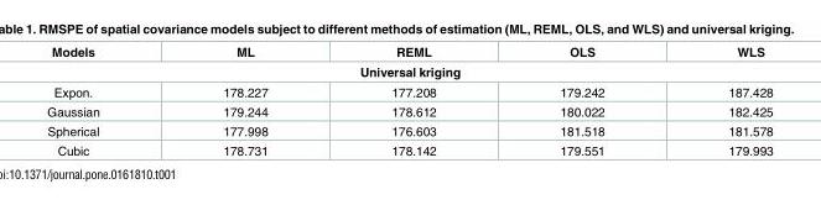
<table><thead><tr><td>Models</td><td>ML</td><td>REML</td><td>OLS</td><td>WLS</td></tr><tr><td colspan="5">Universal kriging</td></tr></thead><tbody><tr><td>Expon.</td><td>178.227</td><td>177.208</td><td>179.242</td><td>187.428</td></tr><tr><td>Gaussian</td><td>179.244</td><td>178.612</td><td>180.022</td><td>182.425</td></tr><tr><td>Spherical</td><td>177.998</td><td>176.603</td><td>181.518</td><td>181.578</td></tr><tr><td>Cubic</td><td>178.731</td><td>178.142</td><td>179.551</td><td>179.993</td></tr></tbody></table>